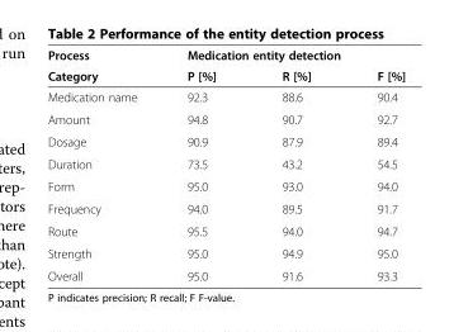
<table><thead><tr><td rowspan="2">Process Category</td><td colspan="3">Medication entity detection</td></tr><tr><td>P [%]</td><td>R [%]</td><td>F [%]</td></tr></thead><tbody><tr><td>Medication name</td><td>92.3</td><td>88.6</td><td>90.4</td></tr><tr><td>Amount</td><td>94.8</td><td>90.7</td><td>92.7</td></tr><tr><td>Dosage</td><td>90.9</td><td>87.9</td><td>89.4</td></tr><tr><td>Duration</td><td>73.5</td><td>43.2</td><td>54.5</td></tr><tr><td>Form</td><td>95.0</td><td>93.0</td><td>94.0</td></tr><tr><td>Frequency</td><td>94.0</td><td>89.5</td><td>91.7</td></tr><tr><td>Route</td><td>95.5</td><td>94.0</td><td>94.7</td></tr><tr><td>Strength</td><td>95.0</td><td>94.9</td><td>95.0</td></tr><tr><td>Overall</td><td>95.0</td><td>91.6</td><td>93.3</td></tr></tbody></table>